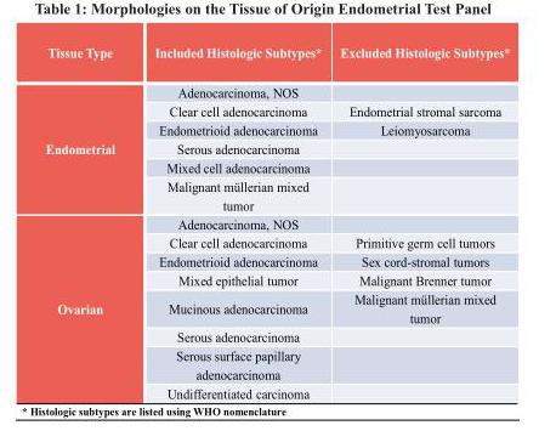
<table><thead><tr><td>Tissue Type</td><td>Included Histologic Subtypes*</td><td>Excluded Histologic Subtypes*</td></tr></thead><tbody><tr><td rowspan="6">Endometrial</td><td>Adenocarcinoma, NOS</td><td></td></tr><tr><td>Clear cell adenocarcinoma</td><td>Endometrial stromal sarcoma</td></tr><tr><td>Endometrioid adenocarcinoma</td><td>Leiomyosarcoma</td></tr><tr><td>Serous adenocarcinoma</td><td></td></tr><tr><td>Mixed cell adenocarcinoma</td><td></td></tr><tr><td>Malignant müllerian mixed tumor</td><td></td></tr><tr><td rowspan="8">Ovarian</td><td>Adenocarcinoma, NOS</td><td></td></tr><tr><td>Clear cell adenocarcinoma</td><td>Primitive germ cell tumors</td></tr><tr><td>Endometrioid adenocarcinoma</td><td>Sex cord-stromal tumors</td></tr><tr><td>Mixed epithelial tumor</td><td>Malignant Brenner tumor</td></tr><tr><td>Mucinous adenocarcinoma</td><td>Malignant müllerian mixed tumor</td></tr><tr><td>Serous adenocarcinoma</td><td></td></tr><tr><td>Serous surface papillary adenocarcinoma</td><td></td></tr><tr><td>Undifferentiated carcinoma</td><td></td></tr></tbody></table>